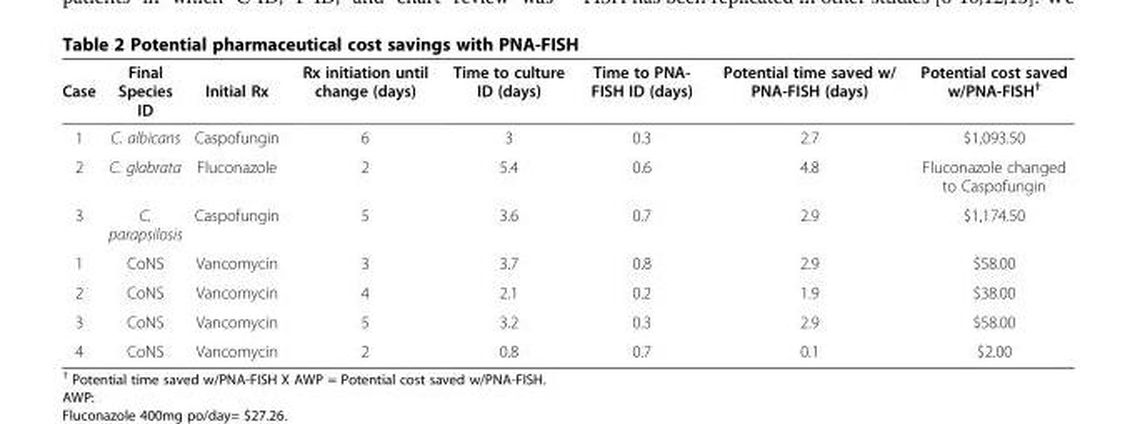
<table><thead><tr><td>Case</td><td>Final Species ID</td><td>Initial Rx</td><td>Rx initiation until change (days)</td><td>Time to culture ID (days)</td><td>Time to PNA- FISH ID (days)</td><td>Potential time saved w/ PNA-FISH (days)</td><td>Potential cost saved w/PNA-FISH<sup>†</sup></td></tr></thead><tbody><tr><td>1</td><td>C. albicans</td><td>Caspofungin</td><td>6</td><td>3</td><td>0.3</td><td>2.7</td><td>$1,093.50</td></tr><tr><td>2</td><td>C. glabrata</td><td>Fluconazole</td><td>2</td><td>5.4</td><td>0.6</td><td>4.8</td><td>Fluconazole changed to Caspofungin</td></tr><tr><td>3</td><td>C. parapsilosis</td><td>Caspofungin</td><td>5</td><td>3.6</td><td>0.7</td><td>2.9</td><td>$1,174.50</td></tr><tr><td>1</td><td>CoNS</td><td>Vancomycin</td><td>3</td><td>3.7</td><td>0.8</td><td>2.9</td><td>$58.00</td></tr><tr><td>2</td><td>CoNS</td><td>Vancomycin</td><td>4</td><td>2.1</td><td>0.2</td><td>1.9</td><td>$38.00</td></tr><tr><td>3</td><td>CoNS</td><td>Vancomycin</td><td>5</td><td>3.2</td><td>0.3</td><td>2.9</td><td>$58.00</td></tr><tr><td>4</td><td>CoNS</td><td>Vancomycin</td><td>2</td><td>0.8</td><td>0.7</td><td>0.1</td><td>$2.00</td></tr></tbody></table>